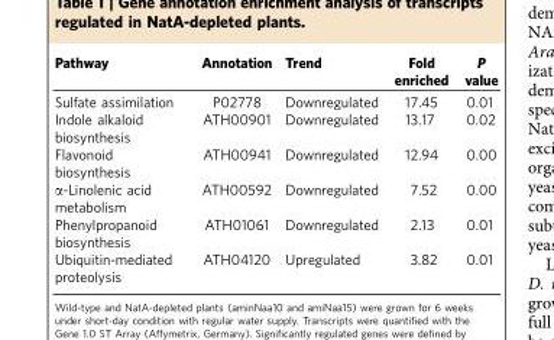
<table><thead><tr><td>Pathway</td><td>Annotation</td><td>Trend</td><td>Fold enriched</td><td>P value</td></tr></thead><tbody><tr><td>Sulfate assimilation</td><td>P02778</td><td>Downregulated</td><td>17.45</td><td>0.01</td></tr><tr><td>Indole alkaloid biosynthesis</td><td>ATH00901</td><td>Downregulated</td><td>13.17</td><td>0.02</td></tr><tr><td>Flavonoid biosynthesis</td><td>ATH00941</td><td>Downregulated</td><td>12.94</td><td>0.00</td></tr><tr><td>α-Linolenic acid metabolism</td><td>ATH00592</td><td>Downregulated</td><td>7.52</td><td>0.00</td></tr><tr><td>Phenylpropanoid biosynthesis</td><td>ATH01061</td><td>Downregulated</td><td>2.13</td><td>0.01</td></tr><tr><td>Ubiquitin-mediated proteolysis</td><td>ATH04120</td><td>Upregulated</td><td>3.82</td><td>0.01</td></tr></tbody></table>